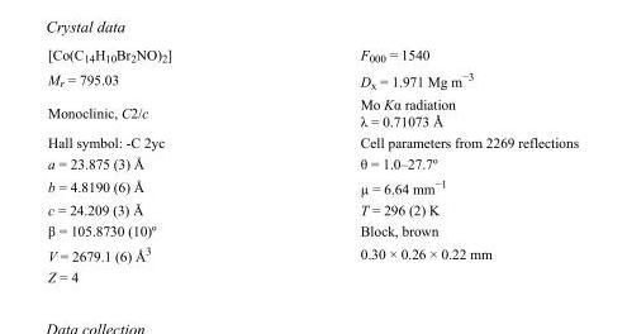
<table><tbody><tr><td>[Co(C<sub>14</sub>H<sub>10</sub>Br<sub>2</sub>NO)<sub>2</sub>]</td><td>F000 = 1540</td></tr><tr><td>M<sub>r</sub> = 795.03</td><td>D<sub>x</sub> = 1.971 Mg m<sup>−3</sup></td></tr><tr><td>Monoclinic, C2/c</td><td>Mo Kα radiation λ = 0.71073 Å</td></tr><tr><td>Hall symbol: -C 2yc</td><td>Cell parameters from 2269 reflections</td></tr><tr><td>a = 23.875 (3) Å</td><td>θ = 1.0–27.7º</td></tr><tr><td>b = 4.8190 (6) Å</td><td>µ = 6.64 mm<sup>−1</sup></td></tr><tr><td>c = 24.209 (3) Å</td><td>T = 296 (2) K</td></tr><tr><td>β = 105.8730 (10)º</td><td>Block, brown</td></tr><tr><td>V = 2679.1 (6) Å<sup>3</sup></td><td>0.30 × 0.26 × 0.22 mm</td></tr><tr><td>Z = 4</td><td></td></tr></tbody></table>